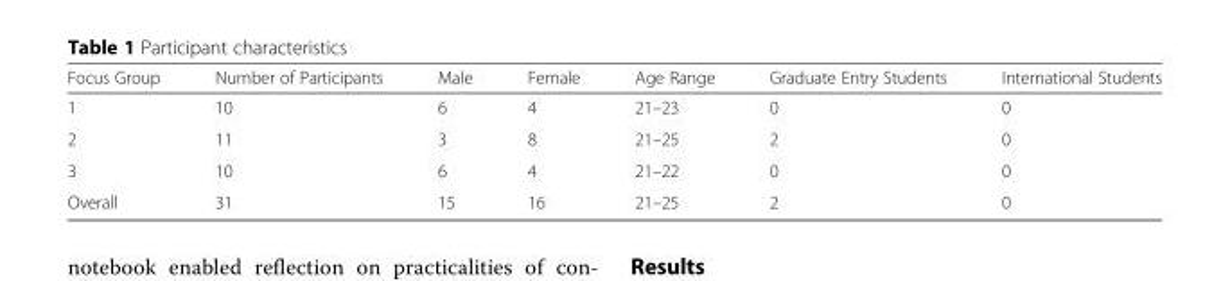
<table><thead><tr><td>Focus Group</td><td>Number of Participants</td><td>Male</td><td>Female</td><td>Age Range</td><td>Graduate Entry Students</td><td>International Students</td></tr></thead><tbody><tr><td>1</td><td>10</td><td>6</td><td>4</td><td>21–23</td><td>0</td><td>0</td></tr><tr><td>2</td><td>11</td><td>3</td><td>8</td><td>21–25</td><td>2</td><td>0</td></tr><tr><td>3</td><td>10</td><td>6</td><td>4</td><td>21–22</td><td>0</td><td>0</td></tr><tr><td>Overall</td><td>31</td><td>15</td><td>16</td><td>21–25</td><td>2</td><td>0</td></tr></tbody></table>